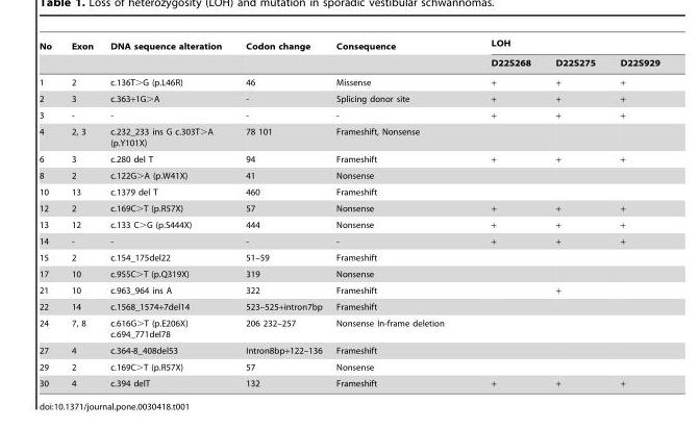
<table><thead><tr><td rowspan="2">No</td><td rowspan="2">Exon</td><td rowspan="2">DNA sequence alteration</td><td rowspan="2">Codon change</td><td rowspan="2">Consequence</td><td colspan="3">LOH</td></tr><tr><td>D22S268</td><td>D22S275</td><td>D22S929</td></tr></thead><tbody><tr><td>1</td><td>2</td><td>c.136T&gt;G (p.L46R)</td><td>46</td><td>Missense</td><td>+</td><td>+</td><td>+</td></tr><tr><td>2</td><td>3</td><td>c.363+1G&gt;A</td><td>-</td><td>Splicing donor site</td><td>+</td><td>+</td><td>+</td></tr><tr><td>3</td><td>-</td><td>-</td><td>-</td><td>-</td><td>+</td><td>+</td><td>+</td></tr><tr><td>4</td><td>2, 3</td><td>c.232_233 ins G c.303T&gt;A (p.Y101X)</td><td>78 101</td><td>Frameshift, Nonsense</td><td></td><td></td><td></td></tr><tr><td>6</td><td>3</td><td>c.280 del T</td><td>94</td><td>Frameshift</td><td>+</td><td>+</td><td>+</td></tr><tr><td>8</td><td>2</td><td>c.122G&gt;A (p.W41X)</td><td>41</td><td>Nonsense</td><td></td><td></td><td></td></tr><tr><td>10</td><td>13</td><td>c.1379 del T</td><td>460</td><td>Frameshift</td><td></td><td></td><td></td></tr><tr><td>12</td><td>2</td><td>c.169C&gt;T (p.R57X)</td><td>57</td><td>Nonsense</td><td>+</td><td>+</td><td>+</td></tr><tr><td>13</td><td>12</td><td>c.133 C&gt;G (p.S444X)</td><td>444</td><td>Nonsense</td><td>+</td><td>+</td><td>+</td></tr><tr><td>14</td><td>-</td><td>-</td><td>-</td><td>-</td><td>+</td><td>+</td><td>+</td></tr><tr><td>15</td><td>2</td><td>c.154_175del22</td><td>51–59</td><td>Frameshift</td><td></td><td></td><td></td></tr><tr><td>17</td><td>10</td><td>c.955C&gt;T (p.Q319X)</td><td>319</td><td>Nonsense</td><td></td><td></td><td></td></tr><tr><td>21</td><td>10</td><td>c.963_964 ins A</td><td>322</td><td>Frameshift</td><td></td><td>+</td><td></td></tr><tr><td>22</td><td>14</td><td>c.1568_1574+7del14</td><td>523–525+intron7bp</td><td>Frameshift</td><td></td><td></td><td></td></tr><tr><td>24</td><td>7, 8</td><td>c.616G&gt;T (p.E206X) c.694_771del78</td><td>206 232–257</td><td>Nonsense In-frame deletion</td><td></td><td></td><td></td></tr><tr><td>27</td><td>4</td><td>c.364-8_408del53</td><td>Intron8bp+122–136</td><td>Frameshift</td><td></td><td></td><td></td></tr><tr><td>29</td><td>2</td><td>c.169C&gt;T (p.R57X)</td><td>57</td><td>Nonsense</td><td></td><td></td><td></td></tr><tr><td>30</td><td>4</td><td>c.394 delT</td><td>132</td><td>Frameshift</td><td>+</td><td>+</td><td>+</td></tr></tbody></table>